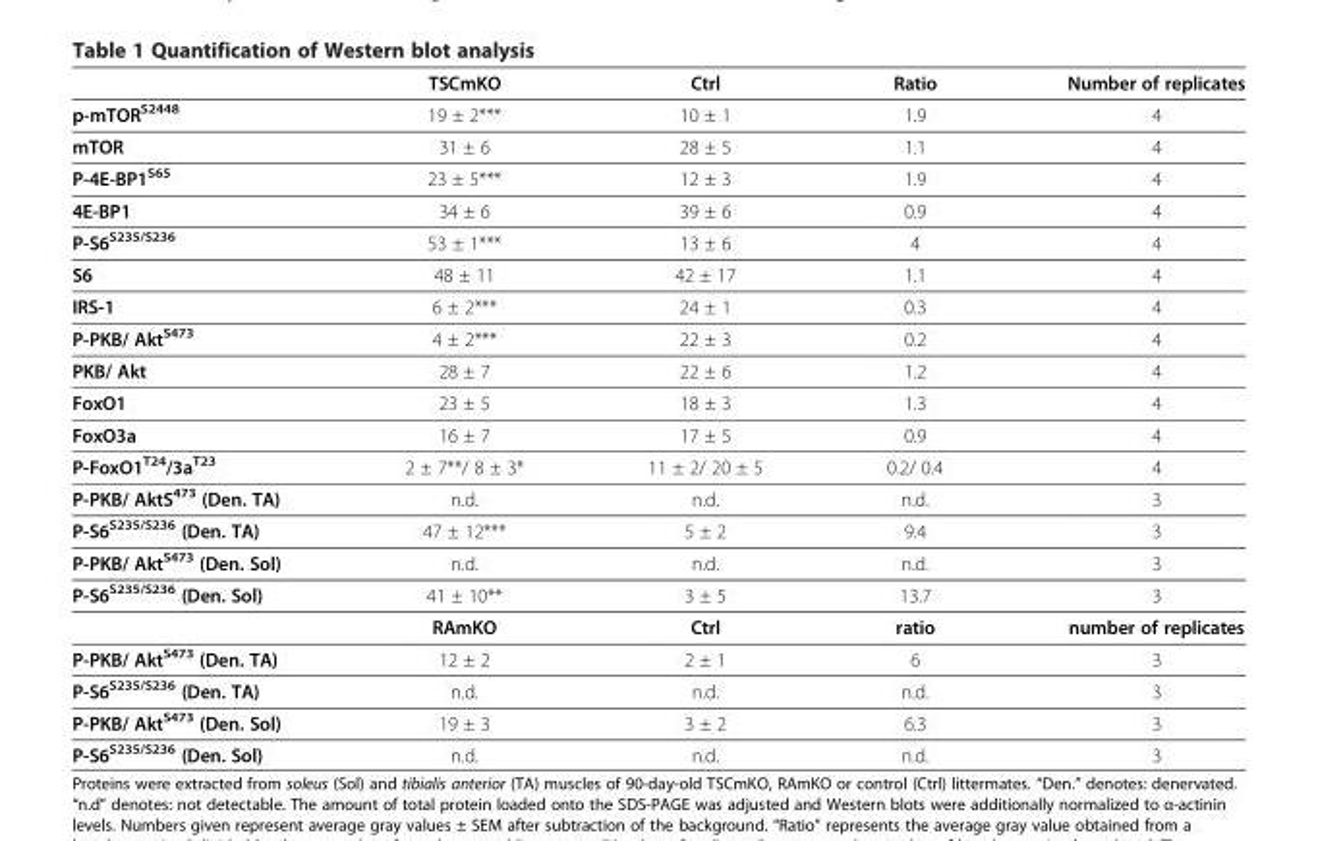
<table><thead><tr><td></td><td>TSCmKO</td><td>Ctrl</td><td>Ratio</td><td>Number of replicates</td></tr></thead><tbody><tr><td>p-mTOR<sup>S2448</sup></td><td>19 ± 2***</td><td>10 ± 1</td><td>1.9</td><td>4</td></tr><tr><td>mTOR</td><td>31 ± 6</td><td>28 ± 5</td><td>1.1</td><td>4</td></tr><tr><td>P-4E-BP1<sup>S65</sup></td><td>23 ± 5***</td><td>12 ± 3</td><td>1.9</td><td>4</td></tr><tr><td>4E-BP1</td><td>34 ± 6</td><td>39 ± 6</td><td>0.9</td><td>4</td></tr><tr><td>P-S6<sup>S235/S236</sup></td><td>53 ± 1***</td><td>13 ± 6</td><td>4</td><td>4</td></tr><tr><td>S6</td><td>48 ± 11</td><td>42 ± 17</td><td>1.1</td><td>4</td></tr><tr><td>IRS-1</td><td>6 ± 2***</td><td>24 ± 1</td><td>0.3</td><td>4</td></tr><tr><td>P-PKB/ Akt<sup>S473</sup></td><td>4 ± 2***</td><td>22 ± 3</td><td>0.2</td><td>4</td></tr><tr><td>PKB/ Akt</td><td>28 ± 7</td><td>22 ± 6</td><td>1.2</td><td>4</td></tr><tr><td>FoxO1</td><td>23 ± 5</td><td>18 ± 3</td><td>1.3</td><td>4</td></tr><tr><td>FoxO3a</td><td>16 ± 7</td><td>17 ± 5</td><td>0.9</td><td>4</td></tr><tr><td>P-FoxO1<sup>T24</sup>/3a<sup>T23</sup></td><td>2 ± 7**/ 8 ± 3*</td><td>11 ± 2/ 20 ± 5</td><td>0.2/ 0.4</td><td>4</td></tr><tr><td>P-PKB/ AktS<sup>473</sup> (Den. TA)</td><td>n.d.</td><td>n.d.</td><td>n.d.</td><td>3</td></tr><tr><td>P-S6<sup>S235/S236</sup> (Den. TA)</td><td>47 ± 12***</td><td>5 ± 2</td><td>9.4</td><td>3</td></tr><tr><td>P-PKB/ Akt<sup>S473</sup> (Den. Sol)</td><td>n.d.</td><td>n.d.</td><td>n.d.</td><td>3</td></tr><tr><td rowspan="2">P-S6<sup>S235/S236</sup> (Den. Sol)</td><td>41 ± 10**</td><td>3 ± 5</td><td>13.7</td><td>3</td></tr><tr><td>RAmKO</td><td>Ctrl</td><td>ratio</td><td>number of replicates</td></tr><tr><td>P-PKB/ Akt<sup>S473</sup> (Den. TA)</td><td>12 ± 2</td><td>2 ± 1</td><td>6</td><td>3</td></tr><tr><td>P-S6<sup>S235/S236</sup> (Den. TA)</td><td>n.d.</td><td>n.d.</td><td>n.d.</td><td>3</td></tr><tr><td>P-PKB/ Akt<sup>S473</sup> (Den. Sol)</td><td>19 ± 3</td><td>3 ± 2</td><td>6.3</td><td>3</td></tr><tr><td>P-S6<sup>S235/S236</sup> (Den. Sol)</td><td>n.d.</td><td>n.d.</td><td>n.d.</td><td>3</td></tr></tbody></table>